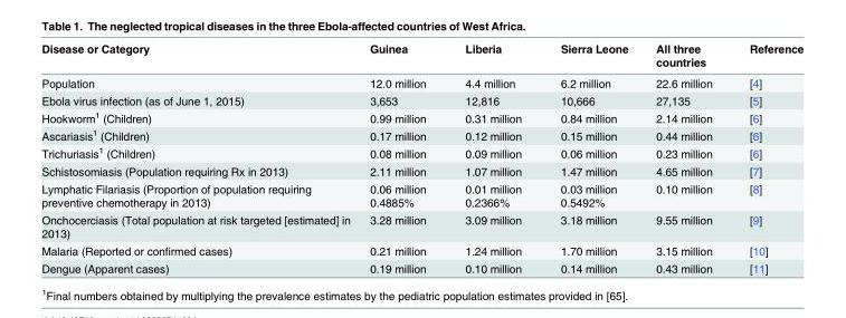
<table><thead><tr><td>Disease or Category</td><td>Guinea</td><td>Liberia</td><td>Sierra Leone</td><td>All three countries</td><td>Reference</td></tr></thead><tbody><tr><td>Population</td><td>12.0 million</td><td>4.4 million</td><td>6.2 million</td><td>22.6 million</td><td>[4]</td></tr><tr><td>Ebola virus infection (as of June 1, 2015)</td><td>3,653</td><td>12,816</td><td>10,666</td><td>27,135</td><td>[5]</td></tr><tr><td>Hookworm<sup>1</sup> (Children)</td><td>0.99 million</td><td>0.31 million</td><td>0.84 million</td><td>2.14 million</td><td>[6]</td></tr><tr><td>Ascariasis<sup>1</sup> (Children)</td><td>0.17 million</td><td>0.12 million</td><td>0.15 million</td><td>0.44 million</td><td>[6]</td></tr><tr><td>Trichuriasis<sup>1</sup> (Children)</td><td>0.08 million</td><td>0.09 million</td><td>0.06 million</td><td>0.23 million</td><td>[6]</td></tr><tr><td>Schistosomiasis (Population requiring Rx in 2013)</td><td>2.11 million</td><td>1.07 million</td><td>1.47 million</td><td>4.65 million</td><td>[7]</td></tr><tr><td>Lymphatic Filariasis (Proportion of population requiring preventive chemotherapy in 2013)</td><td>0.06 million 0.4885%</td><td>0.01 million 0.2366%</td><td>0.03 million 0.5492%</td><td>0.10 million</td><td>[8]</td></tr><tr><td>Onchocerciasis (Total population at risk targeted [estimated] in 2013)</td><td>3.28 million</td><td>3.09 million</td><td>3.18 million</td><td>9.55 million</td><td>[9]</td></tr><tr><td>Malaria (Reported or confirmed cases)</td><td>0.21 million</td><td>1.24 million</td><td>1.70 million</td><td>3.15 million</td><td>[10]</td></tr><tr><td>Dengue (Apparent cases)</td><td>0.19 million</td><td>0.10 million</td><td>0.14 million</td><td>0.43 million</td><td>[11]</td></tr></tbody></table>